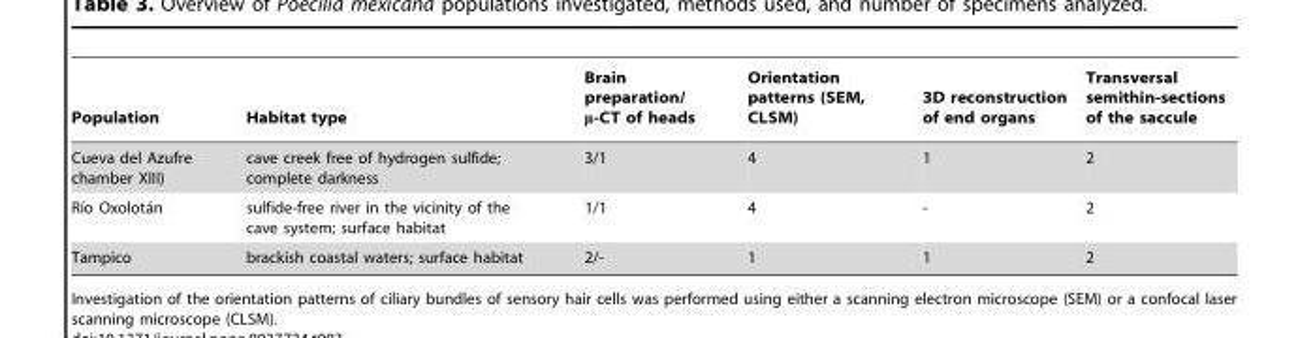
<table><thead><tr><td>Population</td><td>Habitat type</td><td>Brain preparation/ μ-CT of heads</td><td>Orientation patterns (SEM, CLSM)</td><td>3D reconstruction of end organs</td><td>Transversal semithin-sections of the saccule</td></tr></thead><tbody><tr><td>Cueva del Azufre chamber XIII)</td><td>cave creek free of hydrogen sulfide; complete darkness</td><td>3/1</td><td>4</td><td>1</td><td>2</td></tr><tr><td>Rı´o Oxolota´n</td><td>sulfide-free river in the vicinity of the cave system; surface habitat</td><td>1/1</td><td>4</td><td>-</td><td>2</td></tr><tr><td>Tampico</td><td>brackish coastal waters; surface habitat</td><td>2/-</td><td>1</td><td>1</td><td>2</td></tr></tbody></table>